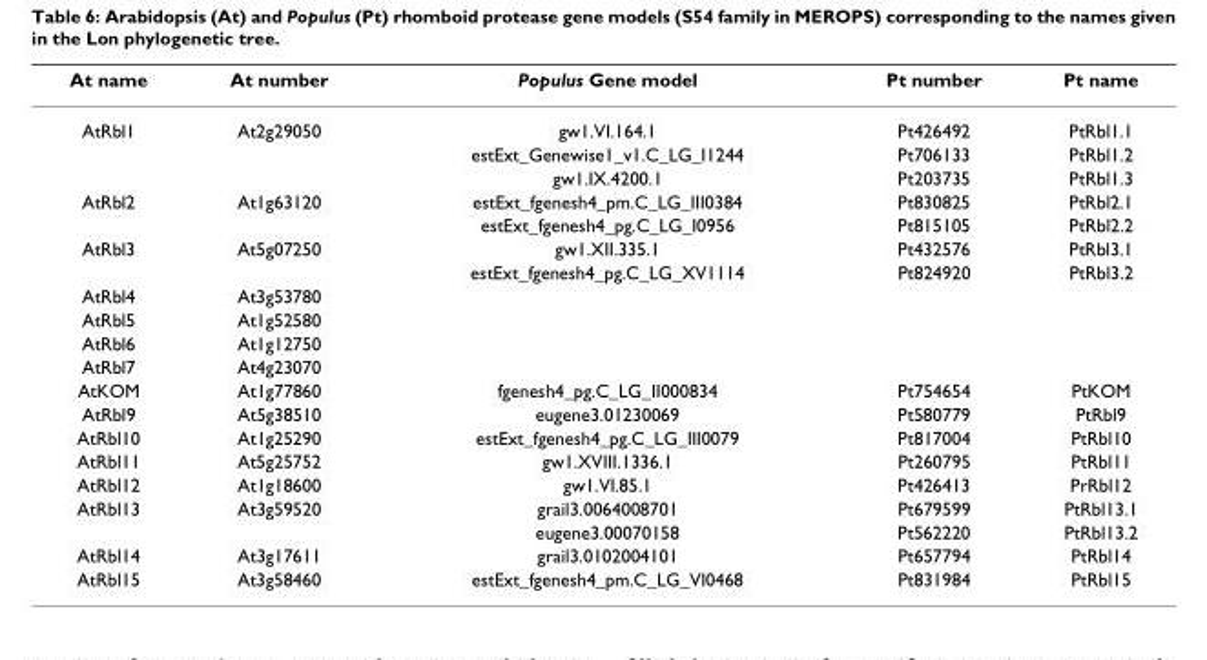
<table><thead><tr><td>At name</td><td>At number</td><td>Populus Gene model</td><td>Pt number</td><td>Pt name</td></tr></thead><tbody><tr><td rowspan="3">AtRbl1</td><td>At2g29050</td><td>gw1.VI.164.1</td><td>Pt426492</td><td>PtRbl1.1</td></tr><tr><td></td><td>estExt_Genewise1_v1.C_LG_I1244</td><td>Pt706133</td><td>PtRbl1.2</td></tr><tr><td></td><td>gw1.IX.4200.1</td><td>Pt203735</td><td>PtRbl1.3</td></tr><tr><td rowspan="2">AtRbl2</td><td>At1g63120</td><td>estExt_fgenesh4_pm.C_LG_III0384</td><td>Pt830825</td><td>PtRbl2.1</td></tr><tr><td></td><td>estExt_fgenesh4_pg.C_LG_I0956</td><td>Pt815105</td><td>PtRbl2.2</td></tr><tr><td rowspan="2">AtRbl3</td><td>At5g07250</td><td>gw1.XII.335.1</td><td>Pt432576</td><td>PtRbl3.1</td></tr><tr><td></td><td>estExt_fgenesh4_pg.C_LG_XV1114</td><td>Pt824920</td><td>PtRbl3.2</td></tr><tr><td>AtRbl4</td><td>At3g53780</td><td></td><td></td><td></td></tr><tr><td>AtRbl5</td><td>At1g52580</td><td></td><td></td><td></td></tr><tr><td>AtRbl6</td><td>At1g12750</td><td></td><td></td><td></td></tr><tr><td>AtRbl7</td><td>At4g23070</td><td></td><td></td><td></td></tr><tr><td>AtKOM</td><td>At1g77860</td><td>fgenesh4_pg.C_LG_II000834</td><td>Pt754654</td><td>PtKOM</td></tr><tr><td>AtRbl9</td><td>At5g38510</td><td>eugene3.01230069</td><td>Pt580779</td><td>PtRbl9</td></tr><tr><td>AtRbl10</td><td>At1g25290</td><td>estExt_fgenesh4_pg.C_LG_III0079</td><td>Pt817004</td><td>PtRbl10</td></tr><tr><td>AtRbl11</td><td>At5g25752</td><td>gw1.XVIII.1336.1</td><td>Pt260795</td><td>PtRbl11</td></tr><tr><td>AtRbl12</td><td>At1g18600</td><td>gw1.VI.85.1</td><td>Pt426413</td><td>PrRbl12</td></tr><tr><td rowspan="2">AtRbl13</td><td>At3g59520</td><td>grail3.0064008701</td><td>Pt679599</td><td>PtRbl13.1</td></tr><tr><td></td><td>eugene3.00070158</td><td>Pt562220</td><td>PtRbl13.2</td></tr><tr><td>AtRbl14</td><td>At3g17611</td><td>grail3.0102004101</td><td>Pt657794</td><td>PtRbl14</td></tr><tr><td>AtRbl15</td><td>At3g58460</td><td>estExt_fgenesh4_pm.C_LG_VI0468</td><td>Pt831984</td><td>PtRbl15</td></tr></tbody></table>